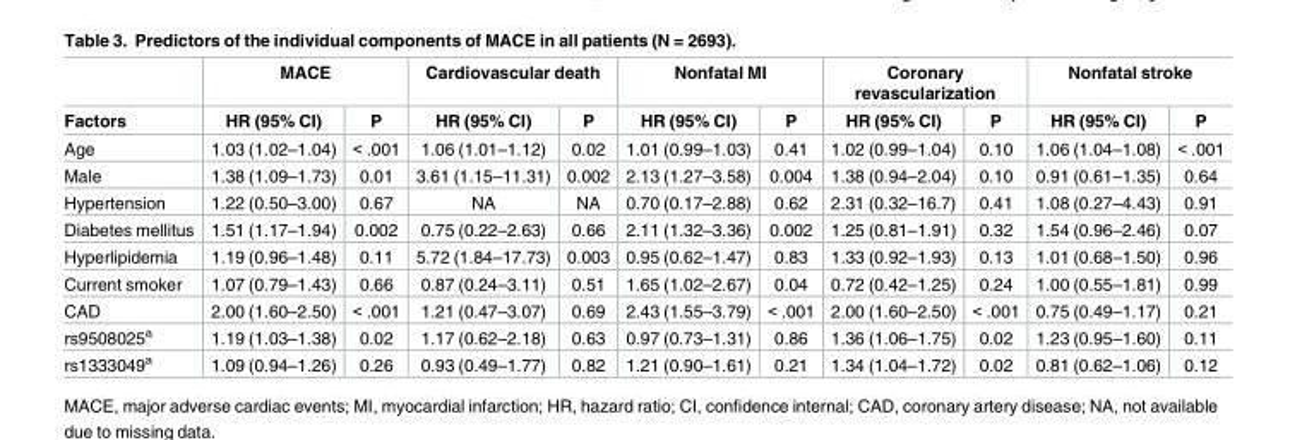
<table><thead><tr><td rowspan="2">Factors</td><td colspan="2">MACE</td><td colspan="2">Cardiovascular death</td><td colspan="2">Nonfatal MI</td><td colspan="2">Coronary revascularization</td><td colspan="2">Nonfatal stroke</td></tr><tr><td>HR (95% CI)</td><td>P</td><td>HR (95% CI)</td><td>P</td><td>HR (95% CI)</td><td>P</td><td>HR (95% CI)</td><td>P</td><td>HR (95% CI)</td><td>P</td></tr></thead><tbody><tr><td>Age</td><td>1.03 (1.02–1.04)</td><td>&lt; .001</td><td>1.06 (1.01–1.12)</td><td>0.02</td><td>1.01 (0.99–1.03)</td><td>0.41</td><td>1.02 (0.99–1.04)</td><td>0.10</td><td>1.06 (1.04–1.08)</td><td>&lt; .001</td></tr><tr><td>Male</td><td>1.38 (1.09–1.73)</td><td>0.01</td><td>3.61 (1.15–11.31)</td><td>0.002</td><td>2.13 (1.27–3.58)</td><td>0.004</td><td>1.38 (0.94–2.04)</td><td>0.10</td><td>0.91 (0.61–1.35)</td><td>0.64</td></tr><tr><td>Hypertension</td><td>1.22 (0.50–3.00)</td><td>0.67</td><td>NA</td><td>NA</td><td>0.70 (0.17–2.88)</td><td>0.62</td><td>2.31 (0.32–16.7)</td><td>0.41</td><td>1.08 (0.27–4.43)</td><td>0.91</td></tr><tr><td>Diabetes mellitus</td><td>1.51 (1.17–1.94)</td><td>0.002</td><td>0.75 (0.22–2.63)</td><td>0.66</td><td>2.11 (1.32–3.36)</td><td>0.002</td><td>1.25 (0.81–1.91)</td><td>0.32</td><td>1.54 (0.96–2.46)</td><td>0.07</td></tr><tr><td>Hyperlipidemia</td><td>1.19 (0.96–1.48)</td><td>0.11</td><td>5.72 (1.84–17.73)</td><td>0.003</td><td>0.95 (0.62–1.47)</td><td>0.83</td><td>1.33 (0.92–1.93)</td><td>0.13</td><td>1.01 (0.68–1.50)</td><td>0.96</td></tr><tr><td>Current smoker</td><td>1.07 (0.79–1.43)</td><td>0.66</td><td>0.87 (0.24–3.11)</td><td>0.51</td><td>1.65 (1.02–2.67)</td><td>0.04</td><td>0.72 (0.42–1.25)</td><td>0.24</td><td>1.00 (0.55–1.81)</td><td>0.99</td></tr><tr><td>CAD</td><td>2.00 (1.60–2.50)</td><td>&lt; .001</td><td>1.21 (0.47–3.07)</td><td>0.69</td><td>2.43 (1.55–3.79)</td><td>&lt; .001</td><td>2.00 (1.60–2.50)</td><td>&lt; .001</td><td>0.75 (0.49–1.17)</td><td>0.21</td></tr><tr><td>rs9508025<sup>a</sup></td><td>1.19 (1.03–1.38)</td><td>0.02</td><td>1.17 (0.62–2.18)</td><td>0.63</td><td>0.97 (0.73–1.31)</td><td>0.86</td><td>1.36 (1.06–1.75)</td><td>0.02</td><td>1.23 (0.95–1.60)</td><td>0.11</td></tr><tr><td>rs1333049<sup>a</sup></td><td>1.09 (0.94–1.26)</td><td>0.26</td><td>0.93 (0.49–1.77)</td><td>0.82</td><td>1.21 (0.90–1.61)</td><td>0.21</td><td>1.34 (1.04–1.72)</td><td>0.02</td><td>0.81 (0.62–1.06)</td><td>0.12</td></tr></tbody></table>